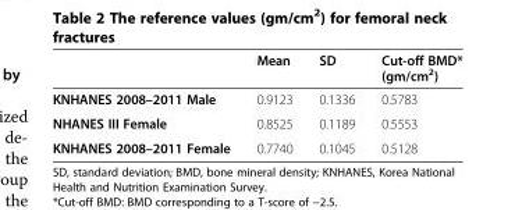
<table><thead><tr><td></td><td>Mean</td><td>SD</td><td>Cut-off BMD* (gm/cm<sup>2</sup>)</td></tr></thead><tbody><tr><td>KNHANES 2008–2011 Male</td><td>0.9123</td><td>0.1336</td><td>0.5783</td></tr><tr><td>NHANES III Female</td><td>0.8525</td><td>0.1189</td><td>0.5553</td></tr><tr><td>KNHANES 2008–2011 Female</td><td>0.7740</td><td>0.1045</td><td>0.5128</td></tr></tbody></table>